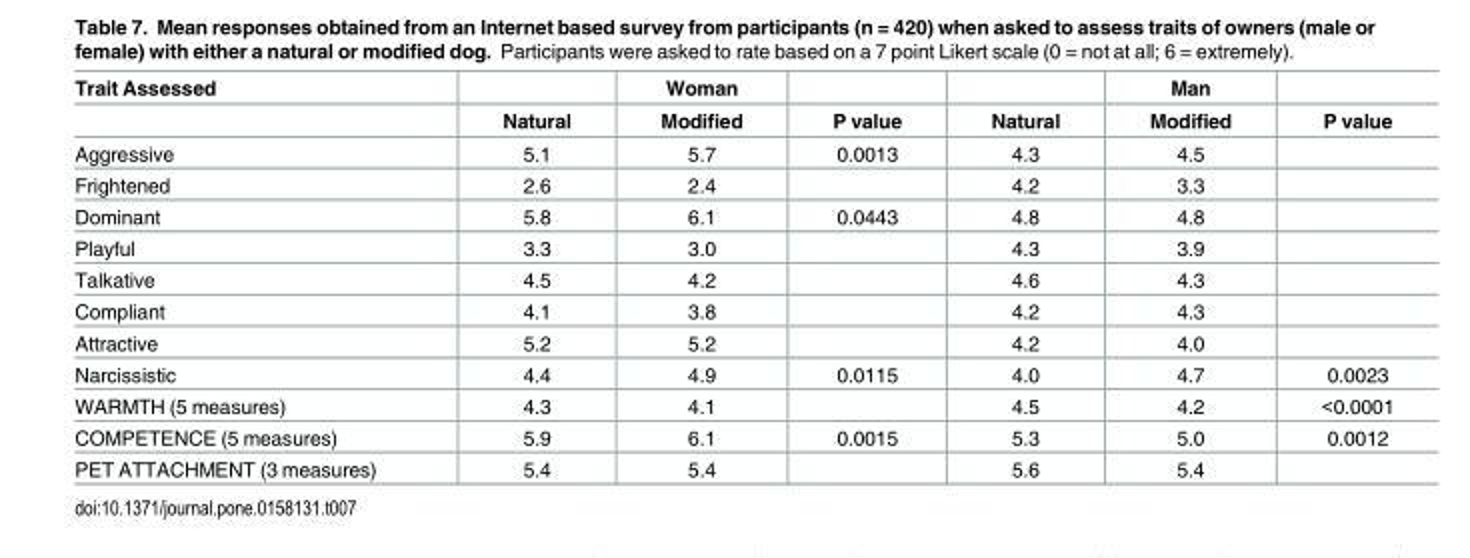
<table><thead><tr><td rowspan="2">Trait Assessed</td><td rowspan="2">Natural</td><td rowspan="2">Woman Modified</td><td rowspan="2">P value</td><td rowspan="2">Natural</td><td rowspan="2">Man Modified</td><td rowspan="2">P value</td></tr><tr></tr></thead><tbody><tr><td>Aggressive</td><td>5.1</td><td>5.7</td><td>0.0013</td><td>4.3</td><td>4.5</td><td></td></tr><tr><td>Frightened</td><td>2.6</td><td>2.4</td><td></td><td>4.2</td><td>3.3</td><td></td></tr><tr><td>Dominant</td><td>5.8</td><td>6.1</td><td>0.0443</td><td>4.8</td><td>4.8</td><td></td></tr><tr><td>Playful</td><td>3.3</td><td>3.0</td><td></td><td>4.3</td><td>3.9</td><td></td></tr><tr><td>Talkative</td><td>4.5</td><td>4.2</td><td></td><td>4.6</td><td>4.3</td><td></td></tr><tr><td>Compliant</td><td>4.1</td><td>3.8</td><td></td><td>4.2</td><td>4.3</td><td></td></tr><tr><td>Attractive</td><td>5.2</td><td>5.2</td><td></td><td>4.2</td><td>4.0</td><td></td></tr><tr><td>Narcissistic</td><td>4.4</td><td>4.9</td><td>0.0115</td><td>4.0</td><td>4.7</td><td>0.0023</td></tr><tr><td>WARMTH (5 measures)</td><td>4.3</td><td>4.1</td><td></td><td>4.5</td><td>4.2</td><td>&lt;0.0001</td></tr><tr><td>COMPETENCE (5 measures)</td><td>5.9</td><td>6.1</td><td>0.0015</td><td>5.3</td><td>5.0</td><td>0.0012</td></tr><tr><td>PET ATTACHMENT (3 measures)</td><td>5.4</td><td>5.4</td><td></td><td>5.6</td><td>5.4</td><td></td></tr></tbody></table>